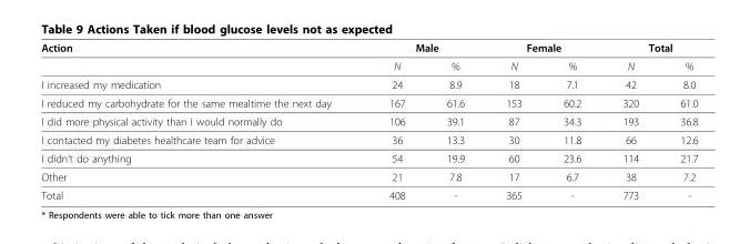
<table><thead><tr><td rowspan="2">Action</td><td colspan="2">Male</td><td colspan="2">Female</td><td colspan="2">Total</td></tr><tr><td>N</td><td>%</td><td>N</td><td>%</td><td>N</td><td>%</td></tr></thead><tbody><tr><td>I increased my medication</td><td>24</td><td>8.9</td><td>18</td><td>7.1</td><td>42</td><td>8.0</td></tr><tr><td>I reduced my carbohydrate for the same mealtime the next day</td><td>167</td><td>61.6</td><td>153</td><td>60.2</td><td>320</td><td>61.0</td></tr><tr><td>I did more physical activity than I would normally do</td><td>106</td><td>39.1</td><td>87</td><td>34.3</td><td>193</td><td>36.8</td></tr><tr><td>I contacted my diabetes healthcare team for advice</td><td>36</td><td>13.3</td><td>30</td><td>11.8</td><td>66</td><td>12.6</td></tr><tr><td>I didn’t do anything</td><td>54</td><td>19.9</td><td>60</td><td>23.6</td><td>114</td><td>21.7</td></tr><tr><td>Other</td><td>21</td><td>7.8</td><td>17</td><td>6.7</td><td>38</td><td>7.2</td></tr><tr><td>Total</td><td>408</td><td>-</td><td>365</td><td>-</td><td>773</td><td>-</td></tr></tbody></table>